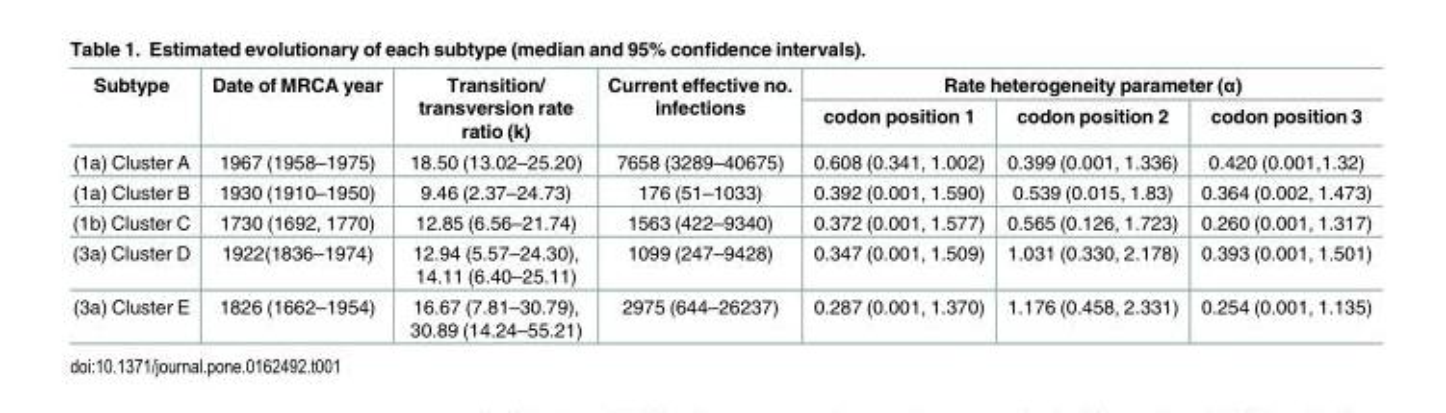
<table><thead><tr><td rowspan="2">Subtype</td><td rowspan="2">Date of MRCA year</td><td rowspan="2">Transition/ transversion rate ratio (k)</td><td rowspan="2">Current effective no. infections</td><td colspan="3">Rate heterogeneity parameter (α)</td></tr><tr><td>codon position 1</td><td>codon position 2</td><td>codon position 3</td></tr></thead><tbody><tr><td>(1a) Cluster A</td><td>1967 (1958–1975)</td><td>18.50 (13.02–25.20)</td><td>7658 (3289–40675)</td><td>0.608 (0.341, 1.002)</td><td>0.399 (0.001, 1.336)</td><td>0.420 (0.001,1.32)</td></tr><tr><td>(1a) Cluster B</td><td>1930 (1910–1950)</td><td>9.46 (2.37–24.73)</td><td>176 (51–1033)</td><td>0.392 (0.001, 1.590)</td><td>0.539 (0.015, 1.83)</td><td>0.364 (0.002, 1.473)</td></tr><tr><td>(1b) Cluster C</td><td>1730 (1692, 1770)</td><td>12.85 (6.56–21.74)</td><td>1563 (422–9340)</td><td>0.372 (0.001, 1.577)</td><td>0.565 (0.126, 1.723)</td><td>0.260 (0.001, 1.317)</td></tr><tr><td>(3a) Cluster D</td><td>1922(1836–1974)</td><td>12.94 (5.57–24.30), 14.11 (6.40–25.11)</td><td>1099 (247–9428)</td><td>0.347 (0.001, 1.509)</td><td>1.031 (0.330, 2.178)</td><td>0.393 (0.001, 1.501)</td></tr><tr><td>(3a) Cluster E</td><td>1826 (1662–1954)</td><td>16.67 (7.81–30.79), 30.89 (14.24–55.21)</td><td>2975 (644–26237)</td><td>0.287 (0.001, 1.370)</td><td>1.176 (0.458, 2.331)</td><td>0.254 (0.001, 1.135)</td></tr></tbody></table>